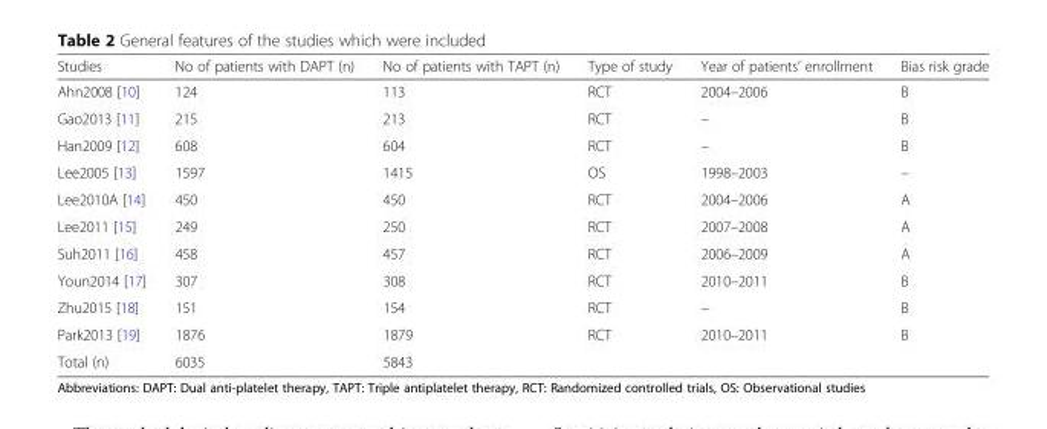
<table><thead><tr><td>Studies</td><td>No of patients with DAPT (n)</td><td>No of patients with TAPT (n)</td><td>Type of study</td><td>Year of patients’ enrollment</td><td>Bias risk grade</td></tr></thead><tbody><tr><td>Ahn2008 [10]</td><td>124</td><td>113</td><td>RCT</td><td>2004–2006</td><td>B</td></tr><tr><td>Gao2013 [11]</td><td>215</td><td>213</td><td>RCT</td><td>–</td><td>B</td></tr><tr><td>Han2009 [12]</td><td>608</td><td>604</td><td>RCT</td><td>–</td><td>B</td></tr><tr><td>Lee2005 [13]</td><td>1597</td><td>1415</td><td>OS</td><td>1998–2003</td><td>–</td></tr><tr><td>Lee2010A [14]</td><td>450</td><td>450</td><td>RCT</td><td>2004–2006</td><td>A</td></tr><tr><td>Lee2011 [15]</td><td>249</td><td>250</td><td>RCT</td><td>2007–2008</td><td>A</td></tr><tr><td>Suh2011 [16]</td><td>458</td><td>457</td><td>RCT</td><td>2006–2009</td><td>A</td></tr><tr><td>Youn2014 [17]</td><td>307</td><td>308</td><td>RCT</td><td>2010–2011</td><td>B</td></tr><tr><td>Zhu2015 [18]</td><td>151</td><td>154</td><td>RCT</td><td>–</td><td>B</td></tr><tr><td>Park2013 [19]</td><td>1876</td><td>1879</td><td>RCT</td><td>2010–2011</td><td>B</td></tr><tr><td>Total (n)</td><td>6035</td><td>5843</td><td></td><td></td><td></td></tr></tbody></table>